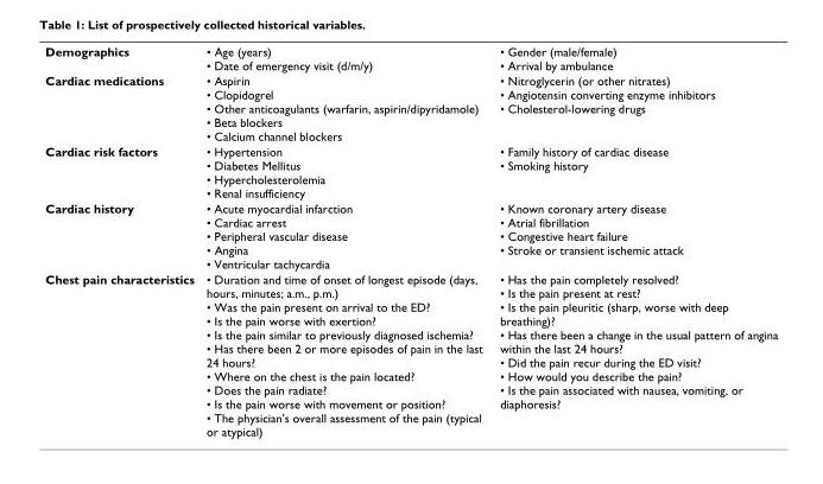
<table><tbody><tr><td>Demographics</td><td>• Age (years) • Date of emergency visit (d/m/y)</td><td>• Gender (male/female) • Arrival by ambulance</td></tr><tr><td>Cardiac medications</td><td>• Aspirin • Clopidogrel • Other anticoagulants (warfarin, aspirin/dipyridamole) • Beta blockers • Calcium channel blockers</td><td>• Nitroglycerin (or other nitrates) • Angiotensin converting enzyme inhibitors • Cholesterol-lowering drugs</td></tr><tr><td>Cardiac risk factors</td><td>• Hypertension • Diabetes Mellitus • Hypercholesterolemia • Renal insufficiency</td><td>• Family history of cardiac disease • Smoking history</td></tr><tr><td>Cardiac history</td><td>• Acute myocardial infarction • Cardiac arrest • Peripheral vascular disease • Angina • Ventricular tachycardia</td><td>• Known coronary artery disease • Atrial fibrillation • Congestive heart failure • Stroke or transient ischemic attack</td></tr><tr><td>Chest pain characteristics</td><td>• Duration and time of onset of longest episode (days, hours, minutes; a.m., p.m.) • Was the pain present on arrival to the ED? • Is the pain worse with exertion? • Is the pain similar to previously diagnosed ischemia? • Has there been 2 or more episodes of pain in the last 24 hours? • Where on the chest is the pain located? • Does the pain radiate? • Is the pain worse with movement or position? • The physician&#x27;s overall assessment of the pain (typical or atypical)</td><td>• Has the pain completely resolved? • Is the pain present at rest? • Is the pain pleuritic (sharp, worse with deep breathing)? • Has there been a change in the usual pattern of angina within the last 24 hours? • Did the pain recur during the ED visit? • How would you describe the pain? • Is the pain associated with nausea, vomiting, or diaphoresis?</td></tr></tbody></table>